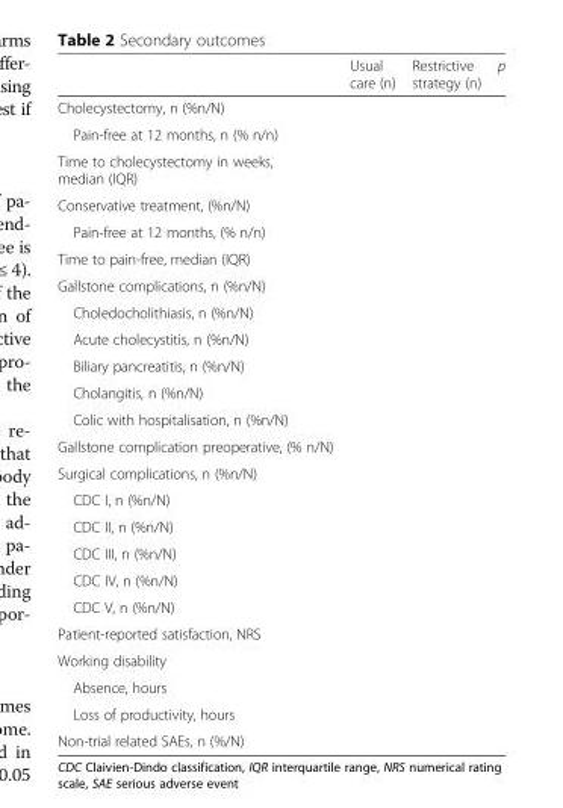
<table><thead><tr><td></td><td>Usual care (n)</td><td>Restrictive strategy (n)</td><td>p</td></tr></thead><tbody><tr><td colspan="4">Cholecystectomy, n (%n/N)</td></tr><tr><td colspan="4">Pain-free at 12 months, n (% n/n)</td></tr><tr><td colspan="4">Time to cholecystectomy in weeks, median (IQR)</td></tr><tr><td colspan="4">Conservative treatment, (%n/N)</td></tr><tr><td colspan="4">Pain-free at 12 months, (% n/n)</td></tr><tr><td colspan="4">Time to pain-free, median (IQR)</td></tr><tr><td colspan="4">Gallstone complications, n (%n/N)</td></tr><tr><td colspan="4">Choledocholithiasis, n (%n/N)</td></tr><tr><td colspan="4">Acute cholecystitis, n (%n/N)</td></tr><tr><td colspan="4">Biliary pancreatitis, n (%n/N)</td></tr><tr><td colspan="4">Cholangitis, n (%n/N)</td></tr><tr><td colspan="4">Colic with hospitalisation, n (%n/N)</td></tr><tr><td colspan="4">Gallstone complication preoperative, (% n/N)</td></tr><tr><td colspan="4">Surgical complications, n (%n/N)</td></tr><tr><td colspan="4">CDC I, n (%n/N)</td></tr><tr><td colspan="4">CDC II, n (%n/N)</td></tr><tr><td colspan="4">CDC III, n (%n/N)</td></tr><tr><td colspan="4">CDC IV, n (%n/N)</td></tr><tr><td colspan="4">CDC V, n (%n/N)</td></tr><tr><td colspan="4">Patient-reported satisfaction, NRS</td></tr><tr><td colspan="4">Working disability</td></tr><tr><td colspan="4">Absence, hours</td></tr><tr><td colspan="4">Loss of productivity, hours</td></tr><tr><td>Non-trial related SAEs, n (%/N)</td><td></td><td></td><td></td></tr></tbody></table>